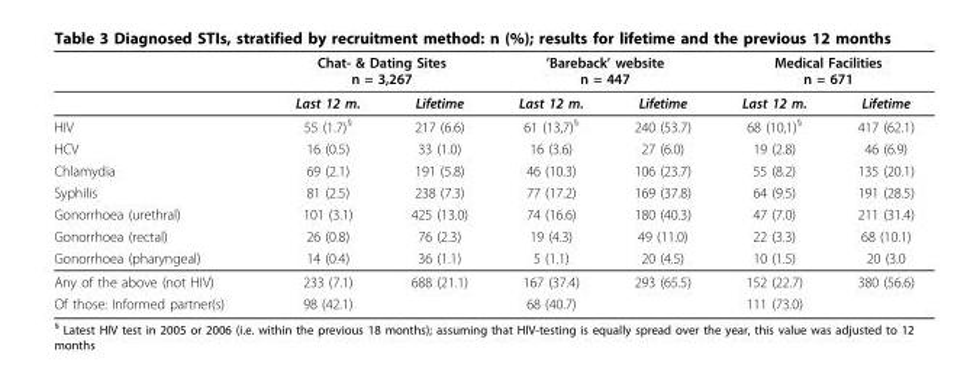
<table><thead><tr><td rowspan="2"></td><td colspan="2">Chat- &amp; Dating Sites n = 3,267</td><td colspan="2">’Bareback’ website n = 447</td><td colspan="2">Medical Facilities n = 671</td></tr><tr><td>Last 12 m.</td><td>Lifetime</td><td>Last 12 m.</td><td>Lifetime</td><td>Last 12 m.</td><td>Lifetime</td></tr></thead><tbody><tr><td>HIV</td><td>55 (1.7)<sup>§</sup></td><td>217 (6.6)</td><td>61 (13,7)<sup>§</sup></td><td>240 (53.7)</td><td>68 (10,1)<sup>§</sup></td><td>417 (62.1)</td></tr><tr><td>HCV</td><td>16 (0.5)</td><td>33 (1.0)</td><td>16 (3.6)</td><td>27 (6.0)</td><td>19 (2.8)</td><td>46 (6.9)</td></tr><tr><td>Chlamydia</td><td>69 (2.1)</td><td>191 (5.8)</td><td>46 (10.3)</td><td>106 (23.7)</td><td>55 (8.2)</td><td>135 (20.1)</td></tr><tr><td>Syphilis</td><td>81 (2.5)</td><td>238 (7.3)</td><td>77 (17.2)</td><td>169 (37.8)</td><td>64 (9.5)</td><td>191 (28.5)</td></tr><tr><td>Gonorrhoea (urethral)</td><td>101 (3.1)</td><td>425 (13.0)</td><td>74 (16.6)</td><td>180 (40.3)</td><td>47 (7.0)</td><td>211 (31.4)</td></tr><tr><td>Gonorrhoea (rectal)</td><td>26 (0.8)</td><td>76 (2.3)</td><td>19 (4.3)</td><td>49 (11.0)</td><td>22 (3.3)</td><td>68 (10.1)</td></tr><tr><td>Gonorrhoea (pharyngeal)</td><td>14 (0.4)</td><td>36 (1.1)</td><td>5 (1.1)</td><td>20 (4.5)</td><td>10 (1.5)</td><td>20 (3.0</td></tr><tr><td>Any of the above (not HIV)</td><td>233 (7.1)</td><td>688 (21.1)</td><td>167 (37.4)</td><td>293 (65.5)</td><td>152 (22.7)</td><td>380 (56.6)</td></tr><tr><td>Of those: Informed partner(s)</td><td>98 (42.1)</td><td></td><td>68 (40.7)</td><td></td><td>111 (73.0)</td><td></td></tr></tbody></table>